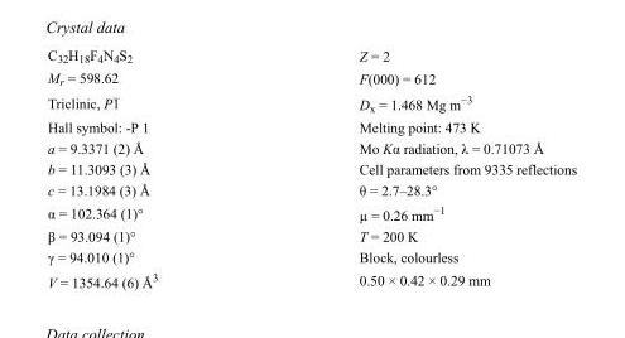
<table><tbody><tr><td>C<sub>32</sub>H<sub>18</sub>F<sub>4</sub>N<sub>4</sub>S<sub>2</sub></td><td>Z = 2</td></tr><tr><td>M<sub>r</sub> = 598.62</td><td>F(000) = 612</td></tr><tr><td>Triclinic, P1</td><td>D<sub>x</sub> = 1.468 Mg m<sup>−3</sup></td></tr><tr><td>Hall symbol: -P 1</td><td>Melting point: 473 K</td></tr><tr><td>a = 9.3371 (2) Å</td><td>Mo Kα radiation, λ = 0.71073 Å</td></tr><tr><td>b = 11.3093 (3) Å</td><td>Cell parameters from 9335 reflections</td></tr><tr><td>c = 13.1984 (3) Å</td><td>θ = 2.7–28.3°</td></tr><tr><td>α = 102.364 (1)°</td><td>µ = 0.26 mm<sup>−1</sup></td></tr><tr><td>β = 93.094 (1)°</td><td>T = 200 K</td></tr><tr><td>γ = 94.010 (1)°</td><td>Block, colourless</td></tr><tr><td>V = 1354.64 (6) Å<sup>3</sup></td><td>0.50 × 0.42 × 0.29 mm</td></tr></tbody></table>